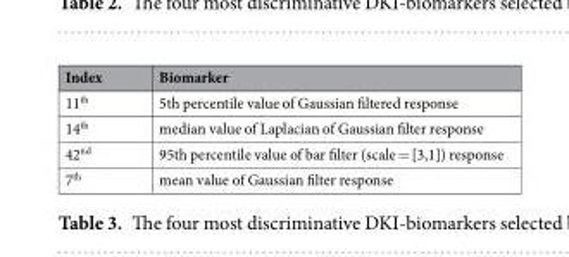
<table><thead><tr><td>Index</td><td>Biomarker</td></tr></thead><tbody><tr><td>11<sup>th</sup></td><td>5th percentile value of Gaussian filtered response</td></tr><tr><td>14<sup>th</sup></td><td>median value of Laplacian of Gaussian filter response</td></tr><tr><td>42<sup>nd</sup></td><td>95th percentile value of bar filter (scale = [3,1]) response</td></tr><tr><td>7<sup>th</sup></td><td>mean value of Gaussian filter response</td></tr></tbody></table>